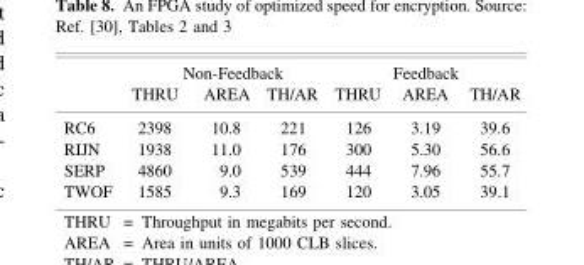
<table><thead><tr><td rowspan="2"></td><td colspan="3">Non-Feedback</td><td colspan="3">Feedback</td></tr><tr><td>THRU</td><td>AREA</td><td>TH/AR</td><td>THRU</td><td>AREA</td><td>TH/AR</td></tr></thead><tbody><tr><td>RC6</td><td>2398</td><td>10.8</td><td>221</td><td>126</td><td>3.19</td><td>39.6</td></tr><tr><td>RIJN</td><td>1938</td><td>11.0</td><td>176</td><td>300</td><td>5.30</td><td>56.6</td></tr><tr><td>SERP</td><td>4860</td><td>9.0</td><td>539</td><td>444</td><td>7.96</td><td>55.7</td></tr><tr><td>TWOF</td><td>1585</td><td>9.3</td><td>169</td><td>120</td><td>3.05</td><td>39.1</td></tr></tbody></table>